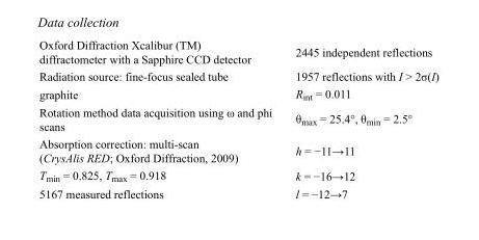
<table><tbody><tr><td>Oxford Diffraction Xcalibur (TM) diffractometer with a Sapphire CCD detector</td><td>2445 independent reflections</td></tr><tr><td>Radiation source: fine-focus sealed tube</td><td>1957 reflections with I &gt; 2σ(I)</td></tr><tr><td>graphite</td><td>R<sub>int</sub> = 0.011</td></tr><tr><td>Rotation method data acquisition using ω and phi scans</td><td>θ<sub>max</sub> = 25.4°, θ<sub>min</sub> = 2.5°</td></tr><tr><td>Absorption correction: multi-scan (CrysAlis RED; Oxford Diffraction, 2009)</td><td>h = −11→11</td></tr><tr><td>T<sub>min</sub> = 0.825, T<sub>max</sub> = 0.918</td><td>k = −16→12</td></tr><tr><td>5167 measured reflections</td><td>l = −12→7</td></tr></tbody></table>